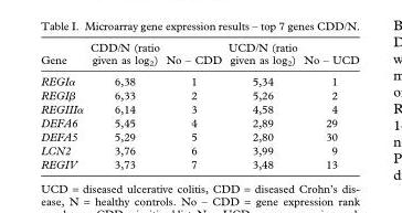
<table><thead><tr><td>Gene</td><td>CDD/N (ratio given as log<sub>2</sub>)</td><td>No – CDD</td><td>UCD/N (ratio given as log<sub>2</sub>)</td><td>No – UCD</td></tr></thead><tbody><tr><td>REGIα</td><td>6,38</td><td>1</td><td>5,34</td><td>1</td></tr><tr><td>REGIβ</td><td>6,33</td><td>2</td><td>5,26</td><td>2</td></tr><tr><td>REGIIIα</td><td>6,14</td><td>3</td><td>4,58</td><td>4</td></tr><tr><td>DEFA6</td><td>5,45</td><td>4</td><td>2,89</td><td>29</td></tr><tr><td>DEFA5</td><td>5,29</td><td>5</td><td>2,80</td><td>30</td></tr><tr><td>LCN2</td><td>3,76</td><td>6</td><td>3,99</td><td>9</td></tr><tr><td>REGIV</td><td>3,73</td><td>7</td><td>3,48</td><td>13</td></tr></tbody></table>